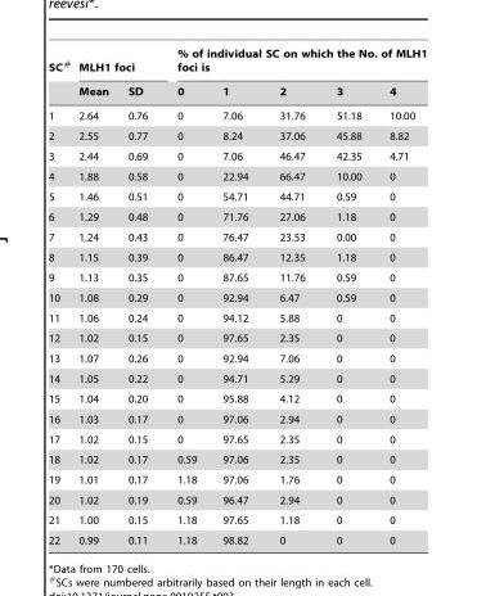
<table><thead><tr><td rowspan="2">SC#</td><td colspan="2">MLH1 foci</td><td colspan="5">% of individual SC on which the No. of MLH1 foci is</td></tr><tr><td>Mean</td><td>SD</td><td>0</td><td>1</td><td>2</td><td>3</td><td>4</td></tr></thead><tbody><tr><td>1</td><td>2.64</td><td>0.76</td><td>0</td><td>7.06</td><td>31.76</td><td>51.18</td><td>10.00</td></tr><tr><td>2</td><td>2.55</td><td>0.77</td><td>0</td><td>8.24</td><td>37.06</td><td>45.88</td><td>8.82</td></tr><tr><td>3</td><td>2.44</td><td>0.69</td><td>0</td><td>7.06</td><td>46.47</td><td>42.35</td><td>4.71</td></tr><tr><td>4</td><td>1.88</td><td>0.58</td><td>0</td><td>22.94</td><td>66.47</td><td>10.00</td><td>0</td></tr><tr><td>5</td><td>1.46</td><td>0.51</td><td>0</td><td>54.71</td><td>44.71</td><td>0.59</td><td>0</td></tr><tr><td>6</td><td>1.29</td><td>0.48</td><td>0</td><td>71.76</td><td>27.06</td><td>1.18</td><td>0</td></tr><tr><td>7</td><td>1.24</td><td>0.43</td><td>0</td><td>76.47</td><td>23.53</td><td>0.00</td><td>0</td></tr><tr><td>8</td><td>1.15</td><td>0.39</td><td>0</td><td>86.47</td><td>12.35</td><td>1.18</td><td>0</td></tr><tr><td>9</td><td>1.13</td><td>0.35</td><td>0</td><td>87.65</td><td>11.76</td><td>0.59</td><td>0</td></tr><tr><td>10</td><td>1.08</td><td>0.29</td><td>0</td><td>92.94</td><td>6.47</td><td>0.59</td><td>0</td></tr><tr><td>11</td><td>1.06</td><td>0.24</td><td>0</td><td>94.12</td><td>5.88</td><td>0</td><td>0</td></tr><tr><td>12</td><td>1.02</td><td>0.15</td><td>0</td><td>97.65</td><td>2.35</td><td>0</td><td>0</td></tr><tr><td>13</td><td>1.07</td><td>0.26</td><td>0</td><td>92.94</td><td>7.06</td><td>0</td><td>0</td></tr><tr><td>14</td><td>1.05</td><td>0.22</td><td>0</td><td>94.71</td><td>5.29</td><td>0</td><td>0</td></tr><tr><td>15</td><td>1.04</td><td>0.20</td><td>0</td><td>95.88</td><td>4.12</td><td>0</td><td>0</td></tr><tr><td>16</td><td>1.03</td><td>0.17</td><td>0</td><td>97.06</td><td>2.94</td><td>0</td><td>0</td></tr><tr><td>17</td><td>1.02</td><td>0.15</td><td>0</td><td>97.65</td><td>2.35</td><td>0</td><td>0</td></tr><tr><td>18</td><td>1.02</td><td>0.17</td><td>0.59</td><td>97.06</td><td>2.35</td><td>0</td><td>0</td></tr><tr><td>19</td><td>1.01</td><td>0.17</td><td>1.18</td><td>97.06</td><td>1.76</td><td>0</td><td>0</td></tr><tr><td>20</td><td>1.02</td><td>0.19</td><td>0.59</td><td>96.47</td><td>2.94</td><td>0</td><td>0</td></tr><tr><td>21</td><td>1.00</td><td>0.15</td><td>1.18</td><td>97.65</td><td>1.18</td><td>0</td><td>0</td></tr><tr><td>22</td><td>0.99</td><td>0.11</td><td>1.18</td><td>98.82</td><td>0</td><td>0</td><td>0</td></tr></tbody></table>